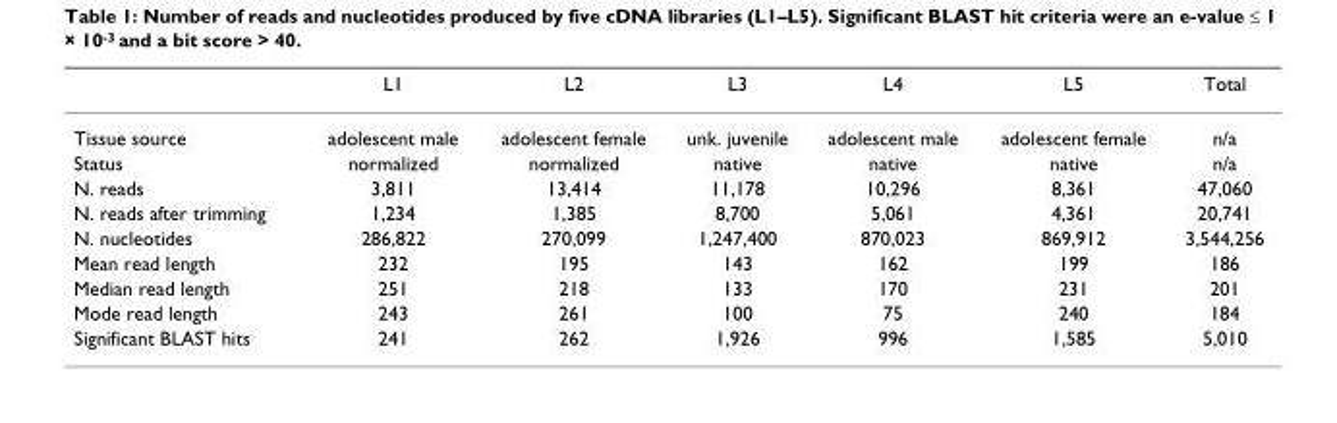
<table><thead><tr><td></td><td>L1</td><td>L2</td><td>L3</td><td>L4</td><td>L5</td><td>Total</td></tr></thead><tbody><tr><td>Tissue source</td><td>adolescent male</td><td>adolescent female</td><td>unk. juvenile</td><td>adolescent male</td><td>adolescent female</td><td>n/a</td></tr><tr><td>Status</td><td>normalized</td><td>normalized</td><td>native</td><td>native</td><td>native</td><td>n/a</td></tr><tr><td>N. reads</td><td>3,811</td><td>13,414</td><td>11,178</td><td>10,296</td><td>8,361</td><td>47,060</td></tr><tr><td>N. reads after trimming</td><td>1,234</td><td>1,385</td><td>8,700</td><td>5,061</td><td>4,361</td><td>20,741</td></tr><tr><td>N. nucleotides</td><td>286,822</td><td>270,099</td><td>1,247,400</td><td>870,023</td><td>869,912</td><td>3,544,256</td></tr><tr><td>Mean read length</td><td>232</td><td>195</td><td>143</td><td>162</td><td>199</td><td>186</td></tr><tr><td>Median read length</td><td>251</td><td>218</td><td>133</td><td>170</td><td>231</td><td>201</td></tr><tr><td>Mode read length</td><td>243</td><td>261</td><td>100</td><td>75</td><td>240</td><td>184</td></tr><tr><td>Significant BLAST hits</td><td>241</td><td>262</td><td>1,926</td><td>996</td><td>1,585</td><td>5,010</td></tr></tbody></table>